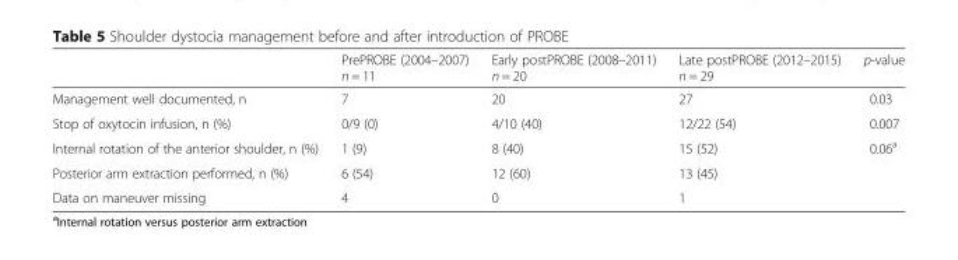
<table><thead><tr><td></td><td>PrePROBE (2004–2007) n = 11</td><td>Early postPROBE (2008–2011) n = 20</td><td>Late postPROBE (2012–2015) n = 29</td><td>p-value</td></tr></thead><tbody><tr><td>Management well documented, n</td><td>7</td><td>20</td><td>27</td><td>0.03</td></tr><tr><td>Stop of oxytocin infusion, n (%)</td><td>0/9 (0)</td><td>4/10 (40)</td><td>12/22 (54)</td><td>0.007</td></tr><tr><td>Internal rotation of the anterior shoulder, n (%)</td><td>1 (9)</td><td>8 (40)</td><td>15 (52)</td><td rowspan="2">0.06<sup>a</sup></td></tr><tr><td>Posterior arm extraction performed, n (%)</td><td>6 (54)</td><td>12 (60)</td><td>13 (45)</td></tr><tr><td>Data on maneuver missing</td><td>4</td><td>0</td><td>1</td><td></td></tr></tbody></table>